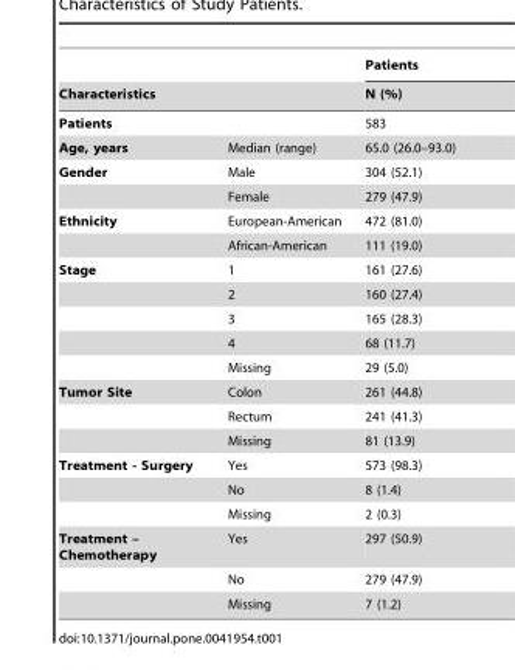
<table><thead><tr><td></td><td></td><td rowspan="2">Patients N (%)</td></tr><tr><td colspan="2">Characteristics</td></tr></thead><tbody><tr><td>Patients</td><td></td><td>583</td></tr><tr><td>Age, years</td><td>Median (range)</td><td>65.0 (26.0–93.0)</td></tr><tr><td rowspan="2">Gender</td><td>Male</td><td>304 (52.1)</td></tr><tr><td>Female</td><td>279 (47.9)</td></tr><tr><td rowspan="2">Ethnicity</td><td>European-American</td><td>472 (81.0)</td></tr><tr><td>African-American</td><td>111 (19.0)</td></tr><tr><td rowspan="5">Stage</td><td>1</td><td>161 (27.6)</td></tr><tr><td>2</td><td>160 (27.4)</td></tr><tr><td>3</td><td>165 (28.3)</td></tr><tr><td>4</td><td>68 (11.7)</td></tr><tr><td>Missing</td><td>29 (5.0)</td></tr><tr><td rowspan="3">Tumor Site</td><td>Colon</td><td>261 (44.8)</td></tr><tr><td>Rectum</td><td>241 (41.3)</td></tr><tr><td>Missing</td><td>81 (13.9)</td></tr><tr><td rowspan="3">Treatment - Surgery</td><td>Yes</td><td>573 (98.3)</td></tr><tr><td>No</td><td>8 (1.4)</td></tr><tr><td>Missing</td><td>2 (0.3)</td></tr><tr><td rowspan="3">Treatment – Chemotherapy</td><td>Yes</td><td>297 (50.9)</td></tr><tr><td>No</td><td>279 (47.9)</td></tr><tr><td>Missing</td><td>7 (1.2)</td></tr></tbody></table>